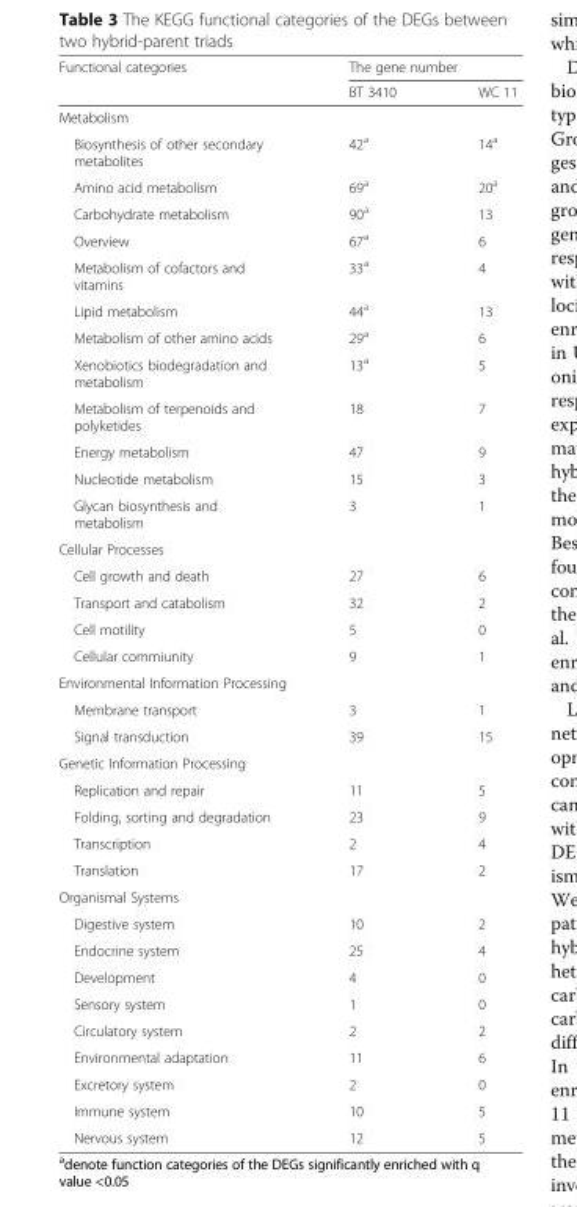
<table><thead><tr><td rowspan="2">Functional categories</td><td colspan="2">The gene number</td></tr><tr><td>BT 3410</td><td>WC 11</td></tr></thead><tbody><tr><td colspan="3">Metabolism</td></tr><tr><td>Biosynthesis of other secondary metabolites</td><td>42<sup>a</sup></td><td>14<sup>a</sup></td></tr><tr><td>Amino acid metabolism</td><td>69<sup>a</sup></td><td>20<sup>a</sup></td></tr><tr><td>Carbohydrate metabolism</td><td>90<sup>a</sup></td><td>13</td></tr><tr><td>Overview</td><td>67<sup>a</sup></td><td>6</td></tr><tr><td>Metabolism of cofactors and vitamins</td><td>33<sup>a</sup></td><td>4</td></tr><tr><td>Lipid metabolism</td><td>44<sup>a</sup></td><td>13</td></tr><tr><td>Metabolism of other amino acids</td><td>29<sup>a</sup></td><td>6</td></tr><tr><td>Xenobiotics biodegradation and metabolism</td><td>13<sup>a</sup></td><td>5</td></tr><tr><td>Metabolism of terpenoids and polyketides</td><td>18</td><td>7</td></tr><tr><td>Energy metabolism</td><td>47</td><td>9</td></tr><tr><td>Nucleotide metabolism</td><td>15</td><td>3</td></tr><tr><td>Glycan biosynthesis and metabolism</td><td>3</td><td>1</td></tr><tr><td colspan="3">Cellular Processes</td></tr><tr><td>Cell growth and death</td><td>27</td><td>6</td></tr><tr><td>Transport and catabolism</td><td>32</td><td>2</td></tr><tr><td>Cell motility</td><td>5</td><td>0</td></tr><tr><td>Cellular commiunity</td><td>9</td><td>1</td></tr><tr><td colspan="3">Environmental Information Processing</td></tr><tr><td>Membrane transport</td><td>3</td><td>1</td></tr><tr><td>Signal transduction</td><td>39</td><td>15</td></tr><tr><td colspan="3">Genetic Information Processing</td></tr><tr><td>Replication and repair</td><td>11</td><td>5</td></tr><tr><td>Folding, sorting and degradation</td><td>23</td><td>9</td></tr><tr><td>Transcription</td><td>2</td><td>4</td></tr><tr><td>Translation</td><td>17</td><td>2</td></tr><tr><td colspan="3">Organismal Systems</td></tr><tr><td>Digestive system</td><td>10</td><td>2</td></tr><tr><td>Endocrine system</td><td>25</td><td>4</td></tr><tr><td>Development</td><td>4</td><td>0</td></tr><tr><td>Sensory system</td><td>1</td><td>0</td></tr><tr><td>Circulatory system</td><td>2</td><td>2</td></tr><tr><td>Environmental adaptation</td><td>11</td><td>6</td></tr><tr><td>Excretory system</td><td>2</td><td>0</td></tr><tr><td>Immune system</td><td>10</td><td>5</td></tr><tr><td>Nervous system</td><td>12</td><td>5</td></tr></tbody></table>